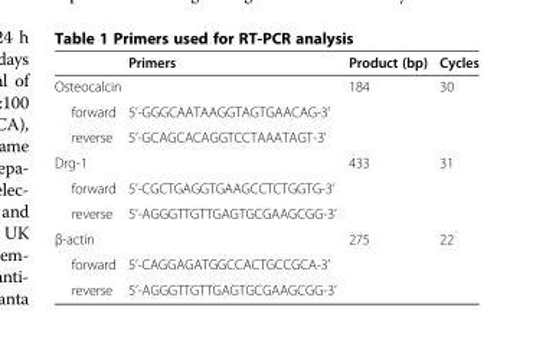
<table><thead><tr><td></td><td>Primers</td><td>Product (bp)</td><td>Cycles</td></tr></thead><tbody><tr><td colspan="2">Osteocalcin</td><td>184</td><td>30</td></tr><tr><td>forward</td><td>5’-GGGCAATAAGGTAGTGAACAG-3’</td><td></td><td></td></tr><tr><td>reverse</td><td>5’-GCAGCACAGGTCCTAAATAGT-3’</td><td></td><td></td></tr><tr><td colspan="2">Drg-1</td><td>433</td><td>31</td></tr><tr><td>forward</td><td>5’-CGCTGAGGTGAAGCCTCTGGTG-3’</td><td></td><td></td></tr><tr><td>reverse</td><td>5’-AGGGTTGTTGAGTGCGAAGCGG-3’</td><td></td><td></td></tr><tr><td colspan="2">β-actin</td><td>275</td><td>22</td></tr><tr><td>forward</td><td>5’-CAGGAGATGGCCACTGCCGCA-3’</td><td></td><td></td></tr><tr><td>reverse</td><td>5’-AGGGTTGTTGAGTGCGAAGCGG-3’</td><td></td><td></td></tr></tbody></table>